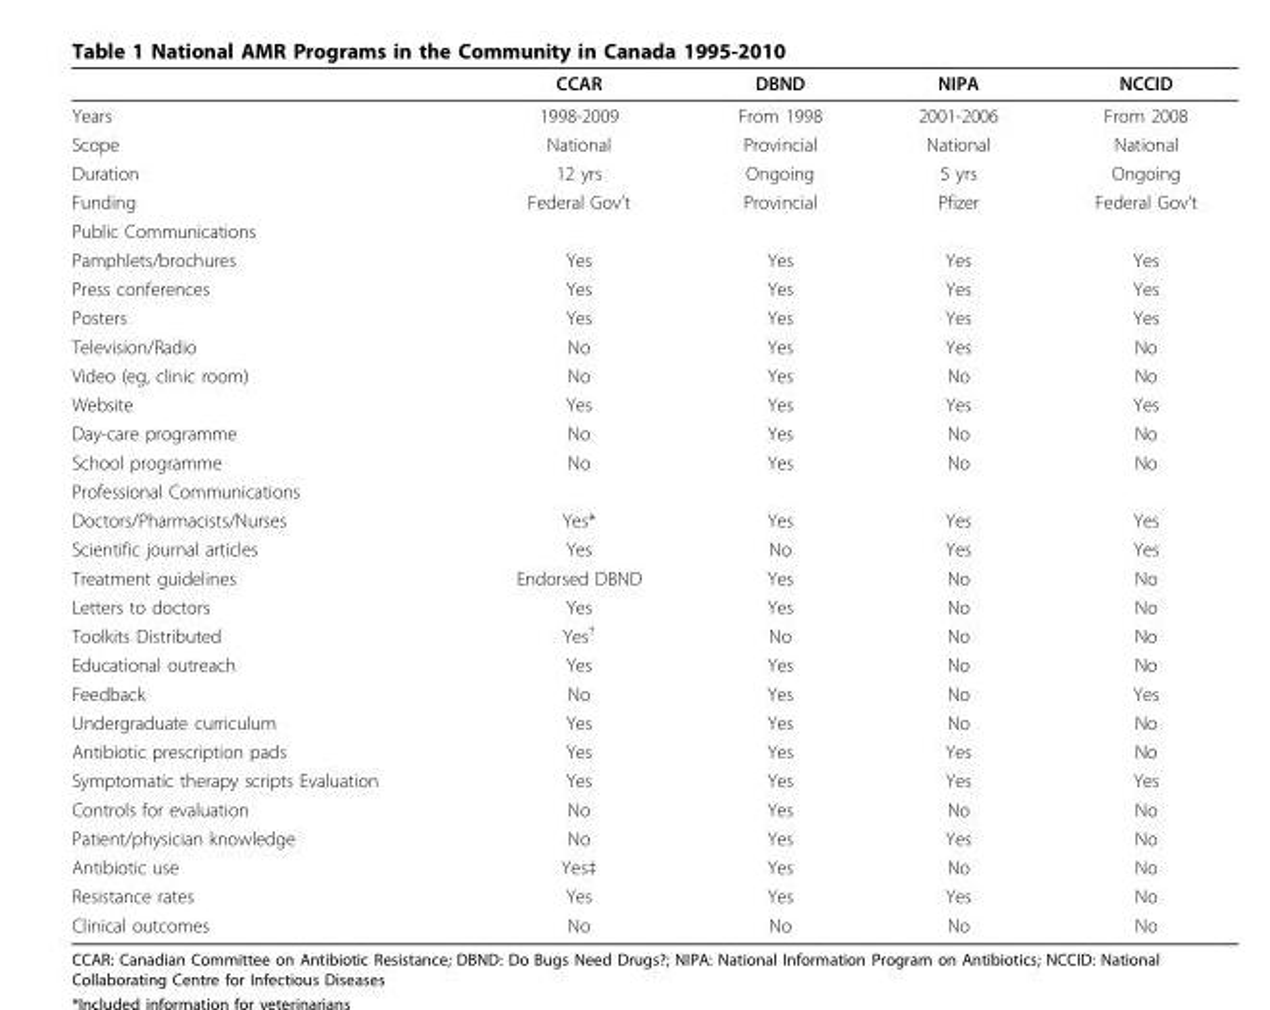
<table><thead><tr><td></td><td>CCAR</td><td>DBND</td><td>NIPA</td><td>NCCID</td></tr></thead><tbody><tr><td>Years</td><td>1998-2009</td><td>From 1998</td><td>2001-2006</td><td>From 2008</td></tr><tr><td>Scope</td><td>National</td><td>Provincial</td><td>National</td><td>National</td></tr><tr><td>Duration</td><td>12 yrs</td><td>Ongoing</td><td>5 yrs</td><td>Ongoing</td></tr><tr><td>Funding</td><td>Federal Gov’t</td><td>Provincial</td><td>Pfizer</td><td>Federal Gov’t</td></tr><tr><td colspan="5">Public Communications</td></tr><tr><td>Pamphlets/brochures</td><td>Yes</td><td>Yes</td><td>Yes</td><td>Yes</td></tr><tr><td>Press conferences</td><td>Yes</td><td>Yes</td><td>Yes</td><td>Yes</td></tr><tr><td>Posters</td><td>Yes</td><td>Yes</td><td>Yes</td><td>Yes</td></tr><tr><td>Television/Radio</td><td>No</td><td>Yes</td><td>Yes</td><td>No</td></tr><tr><td>Video (eg, clinic room)</td><td>No</td><td>Yes</td><td>No</td><td>No</td></tr><tr><td>Website</td><td>Yes</td><td>Yes</td><td>Yes</td><td>Yes</td></tr><tr><td>Day-care programme</td><td>No</td><td>Yes</td><td>No</td><td>No</td></tr><tr><td>School programme</td><td>No</td><td>Yes</td><td>No</td><td>No</td></tr><tr><td colspan="5">Professional Communications</td></tr><tr><td>Doctors/Pharmacists/Nurses</td><td>Yes*</td><td>Yes</td><td>Yes</td><td>Yes</td></tr><tr><td>Scientific journal articles</td><td>Yes</td><td>No</td><td>Yes</td><td>Yes</td></tr><tr><td>Treatment guidelines</td><td>Endorsed DBND</td><td>Yes</td><td>No</td><td>No</td></tr><tr><td>Letters to doctors</td><td>Yes</td><td>Yes</td><td>No</td><td>No</td></tr><tr><td>Toolkits Distributed</td><td>Yes<sup>†</sup></td><td>No</td><td>No</td><td>No</td></tr><tr><td>Educational outreach</td><td>Yes</td><td>Yes</td><td>No</td><td>No</td></tr><tr><td>Feedback</td><td>No</td><td>Yes</td><td>No</td><td>Yes</td></tr><tr><td>Undergraduate curriculum</td><td>Yes</td><td>Yes</td><td>No</td><td>No</td></tr><tr><td>Antibiotic prescription pads</td><td>Yes</td><td>Yes</td><td>Yes</td><td>No</td></tr><tr><td>Symptomatic therapy scripts Evaluation</td><td>Yes</td><td>Yes</td><td>Yes</td><td>Yes</td></tr><tr><td>Controls for evaluation</td><td>No</td><td>Yes</td><td>No</td><td>No</td></tr><tr><td>Patient/physician knowledge</td><td>No</td><td>Yes</td><td>Yes</td><td>No</td></tr><tr><td>Antibiotic use</td><td>Yes‡</td><td>Yes</td><td>No</td><td>No</td></tr><tr><td>Resistance rates</td><td>Yes</td><td>Yes</td><td>Yes</td><td>No</td></tr><tr><td>Clinical outcomes</td><td>No</td><td>No</td><td>No</td><td>No</td></tr></tbody></table>